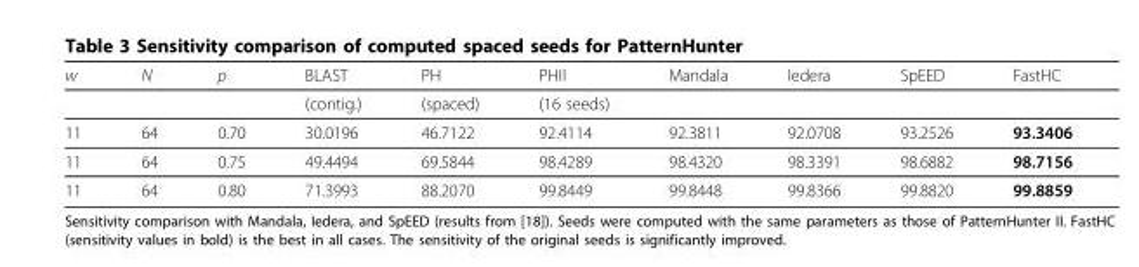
<table><thead><tr><td>w</td><td>N</td><td>p</td><td>BLAST</td><td>PH</td><td>PHII</td><td>Mandala</td><td>Iedera</td><td>SpEED</td><td>FastHC</td></tr></thead><tbody><tr><td></td><td></td><td></td><td>(contig.)</td><td>(spaced)</td><td>(16 seeds)</td><td></td><td></td><td></td><td></td></tr><tr><td>11</td><td>64</td><td>0.70</td><td>30.0196</td><td>46.7122</td><td>92.4114</td><td>92.3811</td><td>92.0708</td><td>93.2526</td><td>93.3406</td></tr><tr><td>11</td><td>64</td><td>0.75</td><td>49.4494</td><td>69.5844</td><td>98.4289</td><td>98.4320</td><td>98.3391</td><td>98.6882</td><td>98.7156</td></tr><tr><td>11</td><td>64</td><td>0.80</td><td>71.3993</td><td>88.2070</td><td>99.8449</td><td>99.8448</td><td>99.8366</td><td>99.8820</td><td>99.8859</td></tr></tbody></table>